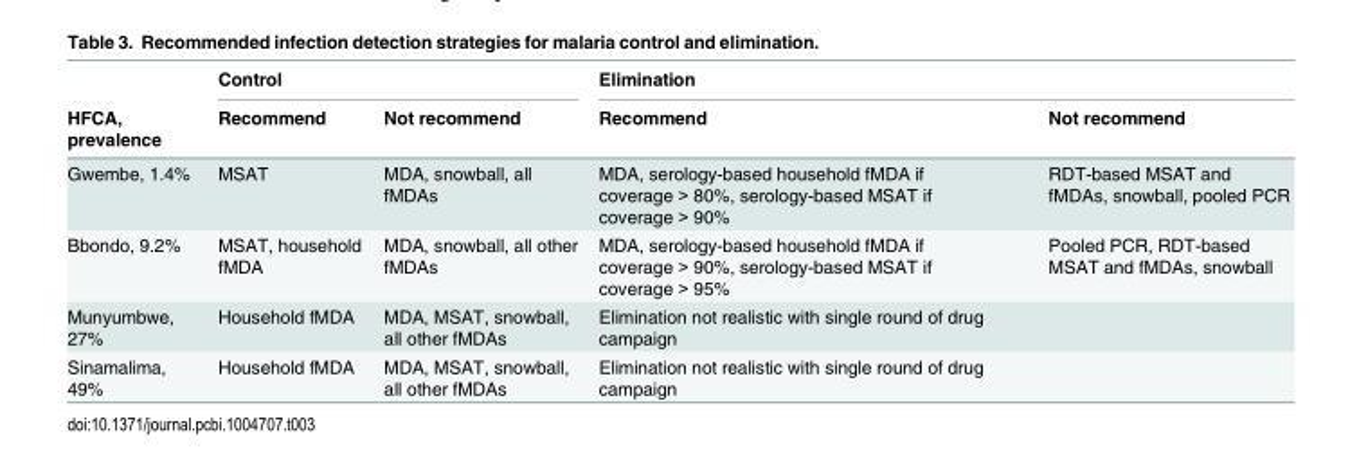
<table><thead><tr><td rowspan="2">HFCA, prevalence</td><td colspan="2">Control</td><td colspan="2">Elimination</td></tr><tr><td>Recommend</td><td>Not recommend</td><td>Recommend</td><td>Not recommend</td></tr></thead><tbody><tr><td>Gwembe, 1.4%</td><td>MSAT</td><td>MDA, snowball, all fMDAs</td><td>MDA, serology-based household fMDA if coverage &gt; 80%, serology-based MSAT if coverage &gt; 90%</td><td>RDT-based MSAT and fMDAs, snowball, pooled PCR</td></tr><tr><td>Bbondo, 9.2%</td><td>MSAT, household fMDA</td><td>MDA, snowball, all other fMDAs</td><td>MDA, serology-based household fMDA if coverage &gt; 90%, serology-based MSAT if coverage &gt; 95%</td><td>Pooled PCR, RDT-based MSAT and fMDAs, snowball</td></tr><tr><td>Munyumbwe, 27%</td><td>Household fMDA</td><td>MDA, MSAT, snowball, all other fMDAs</td><td>Elimination not realistic with single round of drug campaign</td><td></td></tr><tr><td>Sinamalima, 49%</td><td>Household fMDA</td><td>MDA, MSAT, snowball, all other fMDAs</td><td>Elimination not realistic with single round of drug campaign</td><td></td></tr></tbody></table>